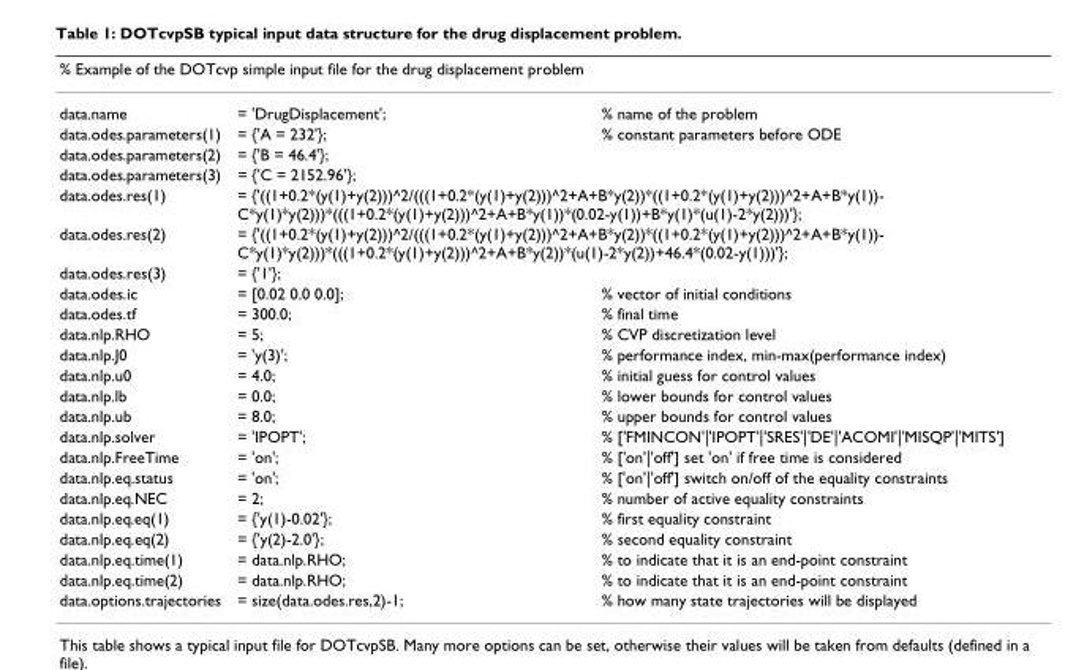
<table><thead><tr><td colspan="3">% Example of the DOTcvp simple input file for the drug displacement problem</td></tr><tr><td>data.name</td><td>= &#x27;DrugDisplacement&#x27;;</td><td>% name of the problem</td></tr></thead><tbody><tr><td>data.odes.parameters(1)</td><td>= {&#x27;A = 232&#x27;};</td><td>% constant parameters before ODE</td></tr><tr><td>data.odes.parameters(2)</td><td>= {&#x27;B = 46.4&#x27;};</td><td></td></tr><tr><td>data.odes.parameters(3)</td><td>= {&#x27;C = 2152.96&#x27;};</td><td></td></tr><tr><td>data.odes.res(1)</td><td colspan="2">= {&#x27;((1+0.2*(y(1)+y(2)))^2/(((1+0.2*(y(1)+y(2)))^2+A+B*y(2))*((1+0.2*(y(1)+y(2)))^2+A+B*y(1))- C*y(1)*y(2)))*(((1+0.2*(y(1)+y(2)))^2+A+B*y(1))*(0.02-y(1))+B*y(1)*(u(1)-2*y(2)))&#x27;};</td></tr><tr><td>data.odes.res(2)</td><td colspan="2">= {&#x27;((1+0.2*(y(1)+y(2)))^2/(((1+0.2*(y(1)+y(2)))^2+A+B*y(2))*((1+0.2*(y(1)+y(2)))^2+A+B*y(1))- C*y(1)*y(2)))*(((1+0.2*(y(1)+y(2)))^2+A+B*y(2))*(u(1)-2*y(2))+46.4*(0.02-y(1)))&#x27;};</td></tr><tr><td>data.odes.res(3)</td><td>= {&#x27;1&#x27;};</td><td></td></tr><tr><td>data.odes.ic</td><td>= [0.02 0.0 0.0];</td><td>% vector of initial conditions</td></tr><tr><td>data.odes.tf</td><td>= 300.0;</td><td>% final time</td></tr><tr><td>data.nlp.RHO</td><td>= 5;</td><td>% CVP discretization level</td></tr><tr><td>data.nlp.J0</td><td>= &#x27;y(3)&#x27;;</td><td>% performance index, min-max(performance index)</td></tr><tr><td>data.nlp.u0</td><td>= 4.0;</td><td>% initial guess for control values</td></tr><tr><td>data.nlp.lb</td><td>= 0.0;</td><td>% lower bounds for control values</td></tr><tr><td>data.nlp.ub</td><td>= 8.0;</td><td>% upper bounds for control values</td></tr><tr><td>data.nlp.solver</td><td>= &#x27;IPOPT&#x27;;</td><td>% [&#x27;FMINCON&#x27;|&#x27;IPOPT&#x27;|&#x27;SRES&#x27;|&#x27;DE&#x27;|&#x27;ACOMI&#x27;|&#x27;MISQP&#x27;|&#x27;MITS&#x27;]</td></tr><tr><td>data.nlp.FreeTime</td><td>= &#x27;on&#x27;;</td><td>% [&#x27;on&#x27;|&#x27;off&#x27;] set &#x27;on&#x27; if free time is considered</td></tr><tr><td>data.nlp.eq.status</td><td>= &#x27;on&#x27;;</td><td>% [&#x27;on&#x27;|&#x27;off&#x27;] switch on/off of the equality constraints</td></tr><tr><td>data.nlp.eq.NEC</td><td>= 2;</td><td>% number of active equality constraints</td></tr><tr><td>data.nlp.eq.eq(1)</td><td>= {&#x27;y(1)-0.02&#x27;};</td><td>% first equality constraint</td></tr><tr><td>data.nlp.eq.eq(2)</td><td>= {&#x27;y(2)-2.0&#x27;};</td><td>% second equality constraint</td></tr><tr><td>data.nlp.eq.time(1)</td><td>= data.nlp.RHO;</td><td>% to indicate that it is an end-point constraint</td></tr><tr><td>data.nlp.eq.time(2)</td><td>= data.nlp.RHO;</td><td>% to indicate that it is an end-point constraint</td></tr><tr><td>data.options.trajectories</td><td>= size(data.odes.res,2)-1;</td><td>% how many state trajectories will be displayed</td></tr></tbody></table>